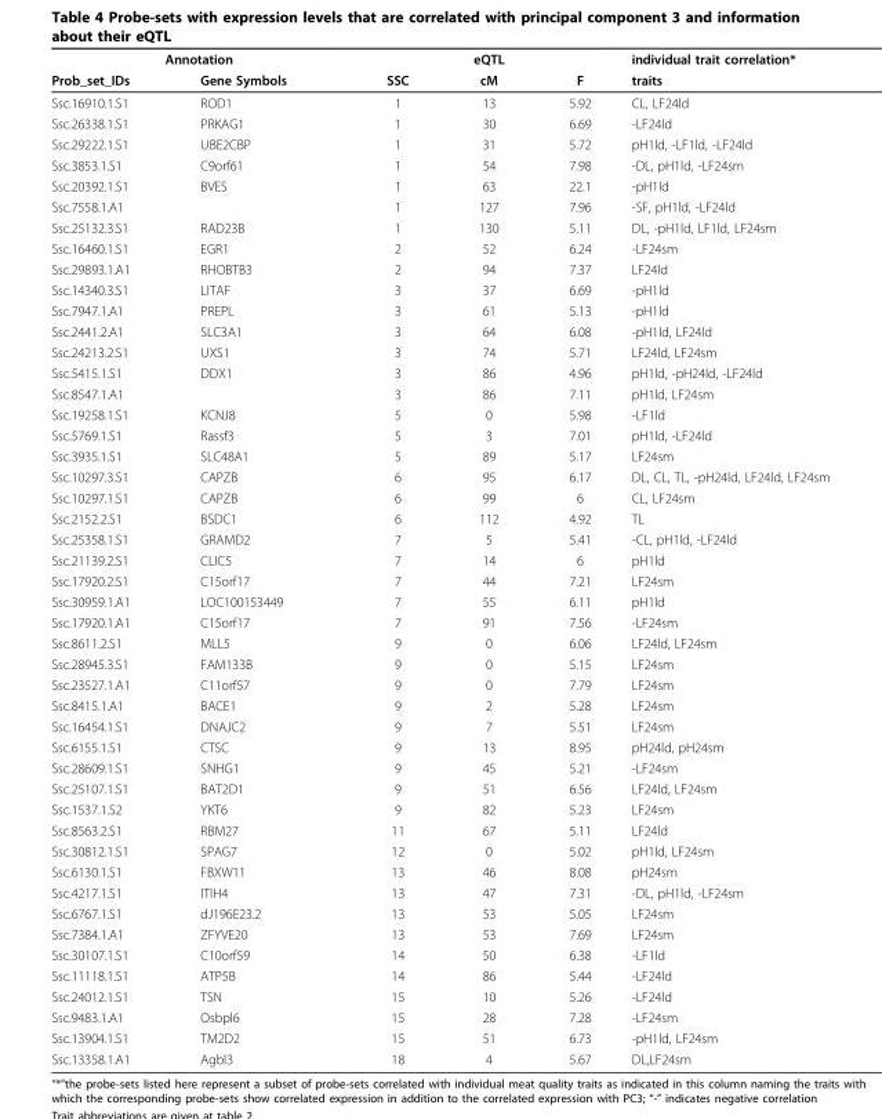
<table><thead><tr><td colspan="2">Annotation</td><td colspan="3">eQTL</td><td rowspan="2">individual trait correlation* traits</td></tr><tr><td>Prob_set_IDs</td><td>Gene Symbols</td><td>SSC</td><td>cM</td><td>F</td></tr></thead><tbody><tr><td>Ssc.16910.1.S1</td><td>ROD1</td><td>1</td><td>13</td><td>5.92</td><td>CL, LF24ld</td></tr><tr><td>Ssc.26338.1.S1</td><td>PRKAG1</td><td>1</td><td>30</td><td>6.69</td><td>-LF24ld</td></tr><tr><td>Ssc.29222.1.S1</td><td>UBE2CBP</td><td>1</td><td>31</td><td>5.72</td><td>pH1ld, -LF1ld, -LF24ld</td></tr><tr><td>Ssc.3853.1.S1</td><td>C9orf61</td><td>1</td><td>54</td><td>7.98</td><td>-DL, pH1ld, -LF24sm</td></tr><tr><td>Ssc.20392.1.S1</td><td>BVES</td><td>1</td><td>63</td><td>22.1</td><td>-pH1ld</td></tr><tr><td>Ssc.7558.1.A1</td><td></td><td>1</td><td>127</td><td>7.96</td><td>-SF, pH1ld, -LF24ld</td></tr><tr><td>Ssc.25132.3.S1</td><td>RAD23B</td><td>1</td><td>130</td><td>5.11</td><td>DL, -pH1ld, LF1ld, LF24sm</td></tr><tr><td>Ssc.16460.1.S1</td><td>EGR1</td><td>2</td><td>52</td><td>6.24</td><td>-LF24sm</td></tr><tr><td>Ssc.29893.1.A1</td><td>RHOBTB3</td><td>2</td><td>94</td><td>7.37</td><td>LF24ld</td></tr><tr><td>Ssc.14340.3.S1</td><td>LITAF</td><td>3</td><td>37</td><td>6.69</td><td>-pH1ld</td></tr><tr><td>Ssc.7947.1.A1</td><td>PREPL</td><td>3</td><td>61</td><td>5.13</td><td>-pH1ld</td></tr><tr><td>Ssc.2441.2.A1</td><td>SLC3A1</td><td>3</td><td>64</td><td>6.08</td><td>-pH1ld, LF24ld</td></tr><tr><td>Ssc.24213.2.S1</td><td>UXS1</td><td>3</td><td>74</td><td>5.71</td><td>LF24ld, LF24sm</td></tr><tr><td>Ssc.5415.1.S1</td><td>DDX1</td><td>3</td><td>86</td><td>4.96</td><td>pH1ld, -pH24ld, -LF24ld</td></tr><tr><td>Ssc.8547.1.A1</td><td></td><td>3</td><td>86</td><td>7.11</td><td>pH1ld, LF24sm</td></tr><tr><td>Ssc.19258.1.S1</td><td>KCNJ8</td><td>5</td><td>0</td><td>5.98</td><td>-LF1ld</td></tr><tr><td>Ssc.5769.1.S1</td><td>Rassf3</td><td>5</td><td>3</td><td>7.01</td><td>pH1ld, -LF24ld</td></tr><tr><td>Ssc.3935.1.S1</td><td>SLC48A1</td><td>5</td><td>89</td><td>5.17</td><td>LF24sm</td></tr><tr><td>Ssc.10297.3.S1</td><td>CAPZB</td><td>6</td><td>95</td><td>6.17</td><td>DL, CL, TL, -pH24ld, LF24ld, LF24sm</td></tr><tr><td>Ssc.10297.1.S1</td><td>CAPZB</td><td>6</td><td>99</td><td>6</td><td>CL, LF24sm</td></tr><tr><td>Ssc.2152.2.S1</td><td>BSDC1</td><td>6</td><td>112</td><td>4.92</td><td>TL</td></tr><tr><td>Ssc.25358.1.S1</td><td>GRAMD2</td><td>7</td><td>5</td><td>5.41</td><td>-CL, pH1ld, -LF24ld</td></tr><tr><td>Ssc.21139.2.S1</td><td>CLIC5</td><td>7</td><td>14</td><td>6</td><td>pH1ld</td></tr><tr><td>Ssc.17920.2.S1</td><td>C15orf17</td><td>7</td><td>44</td><td>7.21</td><td>LF24sm</td></tr><tr><td>Ssc.30959.1.A1</td><td>LOC100153449</td><td>7</td><td>55</td><td>6.11</td><td>pH1ld</td></tr><tr><td>Ssc.17920.1.A1</td><td>C15orf17</td><td>7</td><td>91</td><td>7.56</td><td>-LF24sm</td></tr><tr><td>Ssc.8611.2.S1</td><td>MLL5</td><td>9</td><td>0</td><td>6.06</td><td>LF24ld, LF24sm</td></tr><tr><td>Ssc.28945.3.S1</td><td>FAM133B</td><td>9</td><td>0</td><td>5.15</td><td>LF24sm</td></tr><tr><td>Ssc.23527.1.A1</td><td>C11orf57</td><td>9</td><td>0</td><td>7.79</td><td>LF24sm</td></tr><tr><td>Ssc.8415.1.A1</td><td>BACE1</td><td>9</td><td>2</td><td>5.28</td><td>LF24sm</td></tr><tr><td>Ssc.16454.1.S1</td><td>DNAJC2</td><td>9</td><td>7</td><td>5.51</td><td>LF24sm</td></tr><tr><td>Ssc.6155.1.S1</td><td>CTSC</td><td>9</td><td>13</td><td>8.95</td><td>pH24ld, pH24sm</td></tr><tr><td>Ssc.28609.1.S1</td><td>SNHG1</td><td>9</td><td>45</td><td>5.21</td><td>-LF24sm</td></tr><tr><td>Ssc.25107.1.S1</td><td>BAT2D1</td><td>9</td><td>51</td><td>6.56</td><td>LF24ld, LF24sm</td></tr><tr><td>Ssc.1537.1.S2</td><td>YKT6</td><td>9</td><td>82</td><td>5.23</td><td>LF24sm</td></tr><tr><td>Ssc.8563.2.S1</td><td>RBM27</td><td>11</td><td>67</td><td>5.11</td><td>LF24ld</td></tr><tr><td>Ssc.30812.1.S1</td><td>SPAG7</td><td>12</td><td>0</td><td>5.02</td><td>pH1ld, LF24sm</td></tr><tr><td>Ssc.6130.1.S1</td><td>FBXW11</td><td>13</td><td>46</td><td>8.08</td><td>pH24sm</td></tr><tr><td>Ssc.4217.1.S1</td><td>ITIH4</td><td>13</td><td>47</td><td>7.31</td><td>-DL, pH1ld, -LF24sm</td></tr><tr><td>Ssc.6767.1.S1</td><td>dJ196E23.2</td><td>13</td><td>53</td><td>5.05</td><td>LF24sm</td></tr><tr><td>Ssc.7384.1.A1</td><td>ZFYVE20</td><td>13</td><td>53</td><td>7.69</td><td>LF24sm</td></tr><tr><td>Ssc.30107.1.S1</td><td>C10orf59</td><td>14</td><td>50</td><td>6.38</td><td>-LF1ld</td></tr><tr><td>Ssc.11118.1.S1</td><td>ATP5B</td><td>14</td><td>86</td><td>5.44</td><td>-LF24ld</td></tr><tr><td>Ssc.24012.1.S1</td><td>TSN</td><td>15</td><td>10</td><td>5.26</td><td>-LF24ld</td></tr><tr><td>Ssc.9483.1.A1</td><td>Osbpl6</td><td>15</td><td>28</td><td>7.28</td><td>-LF24sm</td></tr><tr><td>Ssc.13904.1.S1</td><td>TM2D2</td><td>15</td><td>51</td><td>6.73</td><td>-pH1ld, LF24sm</td></tr><tr><td>Ssc.13358.1.A1</td><td>Agbl3</td><td>18</td><td>4</td><td>5.67</td><td>DL,LF24sm</td></tr></tbody></table>